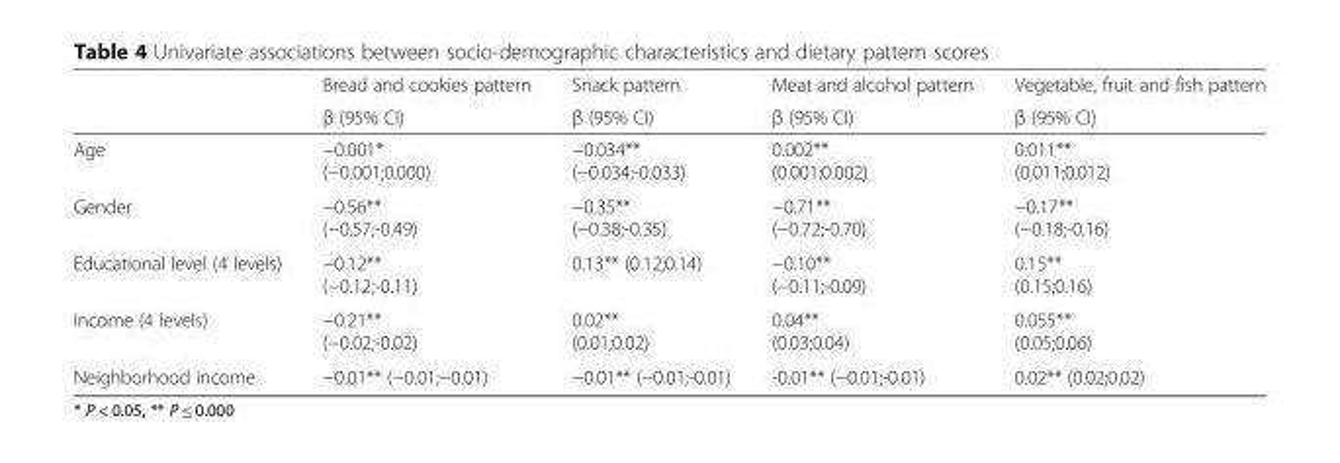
<table><thead><tr><td rowspan="2"></td><td rowspan="2">Bread and cookies pattern β (95% CI)</td><td rowspan="2">Snack pattern β (95% CI)</td><td rowspan="2">Meat and alcohol pattern β (95% CI)</td><td rowspan="2">Vegetable, fruit and fish pattern β (95% CI)</td></tr><tr></tr></thead><tbody><tr><td>Age</td><td>−0.001* (−0.001;0.000)</td><td>−0.034** (−0.034;-0.033)</td><td>0.002** (0.001;0.002)</td><td>0.011** (0.011;0.012)</td></tr><tr><td>Gender</td><td>−0.56** (−0.57;-0.49)</td><td>−0.35** (−0.38;-0.35)</td><td>−0.71** (−0.72;-0.70)</td><td>−0.17** (−0.18;-0.16)</td></tr><tr><td>Educational level (4 levels)</td><td>−0.12** (−0.12;-0.11)</td><td>0.13** (0.12;0.14)</td><td>−0.10** (−0.11;-0.09)</td><td>0.15** (0.15;0.16)</td></tr><tr><td>Income (4 levels)</td><td>−0.21** (−0.02;-0.02)</td><td>0.02** (0.01;0.02)</td><td>0.04** (0.03;0.04)</td><td>0.055** (0.05;0.06)</td></tr><tr><td>Neighborhood income</td><td>−0.01** (−0.01;−0.01)</td><td>−0.01** (−0.01;-0.01)</td><td>-0.01** (−0.01;-0.01)</td><td>0.02** (0.02;0.02)</td></tr></tbody></table>